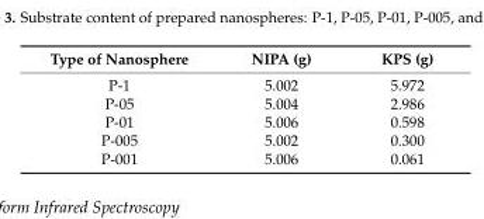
<table><thead><tr><td>Type of Nanosphere</td><td>NIPA (g)</td><td>KPS (g)</td></tr></thead><tbody><tr><td>P-1</td><td>5.002</td><td>5.972</td></tr><tr><td>P-05</td><td>5.004</td><td>2.986</td></tr><tr><td>P-01</td><td>5.006</td><td>0.598</td></tr><tr><td>P-005</td><td>5.002</td><td>0.300</td></tr><tr><td>P-001</td><td>5.006</td><td>0.061</td></tr></tbody></table>